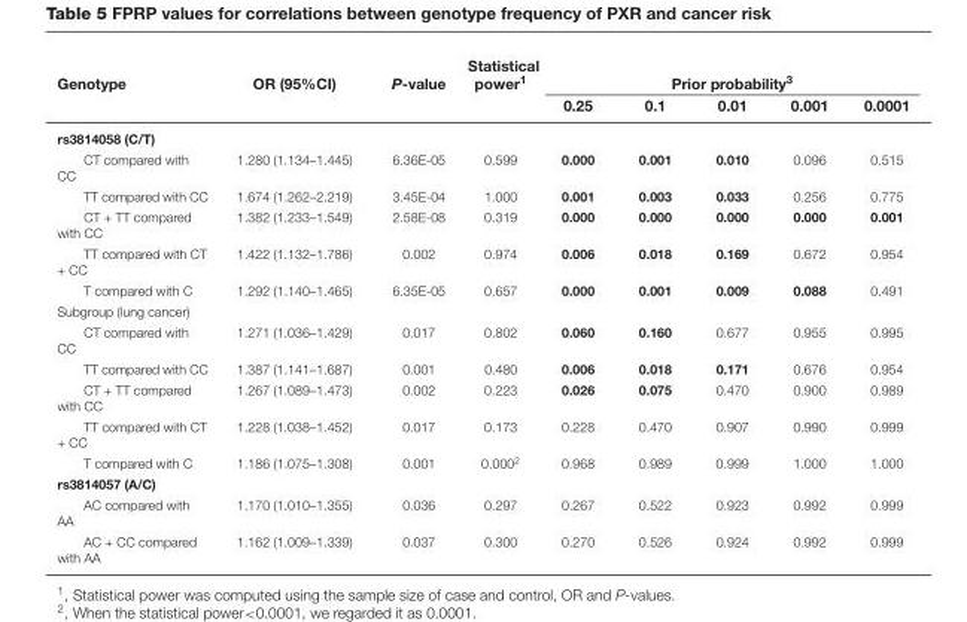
<table><thead><tr><td rowspan="2">Genotype</td><td rowspan="2">OR (95%CI)</td><td rowspan="2">P-value</td><td rowspan="2">Statistical power<sup>1</sup></td><td colspan="5">Prior probability<sup>3</sup></td></tr><tr><td>0.25</td><td>0.1</td><td>0.01</td><td>0.001</td><td>0.0001</td></tr></thead><tbody><tr><td colspan="9">rs3814058 (C/T)</td></tr><tr><td>CT compared with CC</td><td>1.280 (1.134–1.445)</td><td>6.36E-05</td><td>0.599</td><td>0.000</td><td>0.001</td><td>0.010</td><td>0.096</td><td>0.515</td></tr><tr><td>TT compared with CC</td><td>1.674 (1.262–2.219)</td><td>3.45E-04</td><td>1.000</td><td>0.001</td><td>0.003</td><td>0.033</td><td>0.256</td><td>0.775</td></tr><tr><td>CT + TT compared with CC</td><td>1.382 (1.233–1.549)</td><td>2.58E-08</td><td>0.319</td><td>0.000</td><td>0.000</td><td>0.000</td><td>0.000</td><td>0.001</td></tr><tr><td>TT compared with CT + CC</td><td>1.422 (1.132–1.786)</td><td>0.002</td><td>0.974</td><td>0.006</td><td>0.018</td><td>0.169</td><td>0.672</td><td>0.954</td></tr><tr><td>T compared with C</td><td>1.292 (1.140–1.465)</td><td>6.35E-05</td><td>0.657</td><td>0.000</td><td>0.001</td><td>0.009</td><td>0.088</td><td>0.491</td></tr><tr><td colspan="9">Subgroup (lung cancer)</td></tr><tr><td>CT compared with CC</td><td>1.271 (1.036–1.429)</td><td>0.017</td><td>0.802</td><td>0.060</td><td>0.160</td><td>0.677</td><td>0.955</td><td>0.995</td></tr><tr><td>TT compared with CC</td><td>1.387 (1.141–1.687)</td><td>0.001</td><td>0.480</td><td>0.006</td><td>0.018</td><td>0.171</td><td>0.676</td><td>0.954</td></tr><tr><td>CT + TT compared with CC</td><td>1.267 (1.089–1.473)</td><td>0.002</td><td>0.223</td><td>0.026</td><td>0.075</td><td>0.470</td><td>0.900</td><td>0.989</td></tr><tr><td>TT compared with CT + CC</td><td>1.228 (1.038–1.452)</td><td>0.017</td><td>0.173</td><td>0.228</td><td>0.470</td><td>0.907</td><td>0.990</td><td>0.999</td></tr><tr><td>T compared with C</td><td>1.186 (1.075–1.308)</td><td>0.001</td><td>0.000<sup>2</sup></td><td>0.968</td><td>0.989</td><td>0.999</td><td>1.000</td><td>1.000</td></tr><tr><td colspan="9">rs3814057 (A/C)</td></tr><tr><td>AC compared with AA</td><td>1.170 (1.010–1.355)</td><td>0.036</td><td>0.297</td><td>0.267</td><td>0.522</td><td>0.923</td><td>0.992</td><td>0.999</td></tr><tr><td>AC + CC compared with AA</td><td>1.162 (1.009–1.339)</td><td>0.037</td><td>0.300</td><td>0.270</td><td>0.526</td><td>0.924</td><td>0.992</td><td>0.999</td></tr></tbody></table>